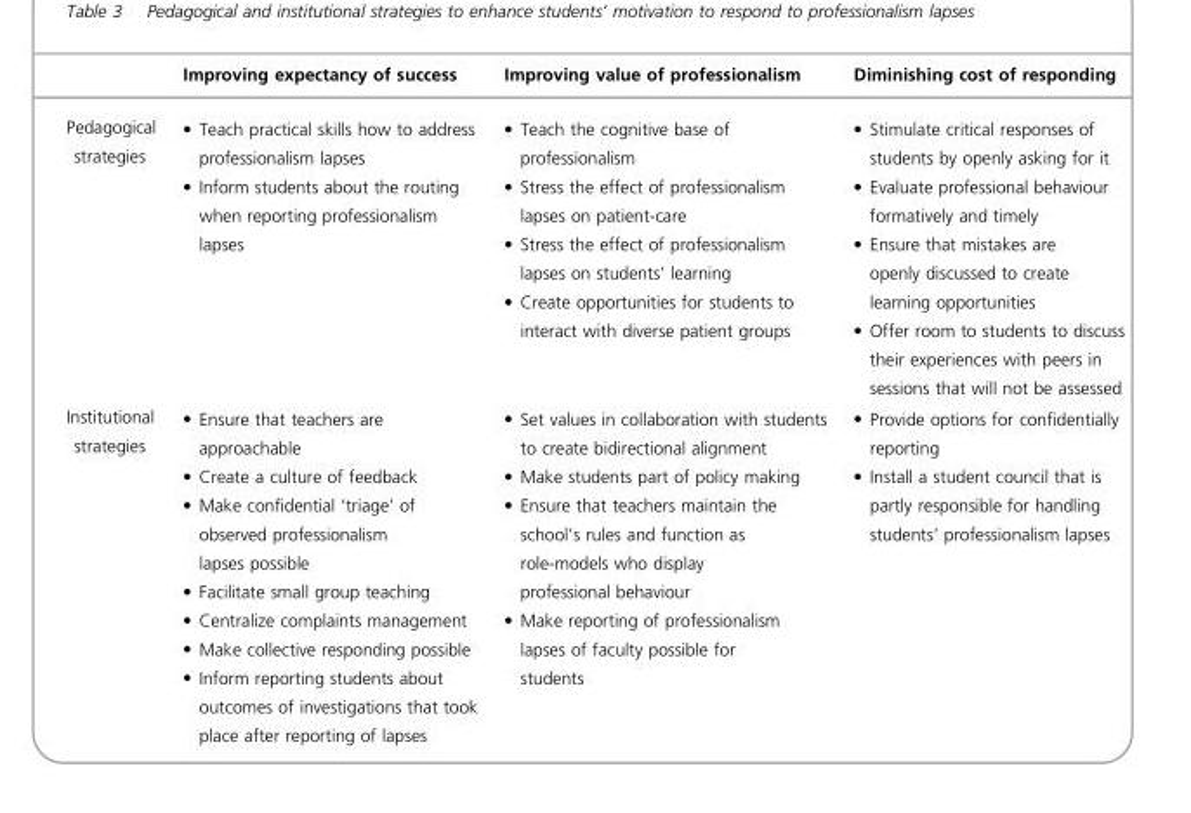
<table><thead><tr><td></td><td>Improving expectancy of success</td><td>Improving value of professionalism</td><td>Diminishing cost of responding</td></tr></thead><tbody><tr><td>Pedagogical strategies</td><td>� Teach practical skills how to address professionalism lapses � Inform students about the routing when reporting professionalism lapses</td><td>� Teach the cognitive base of professionalism � Stress the effect of professionalism lapses on patient-care � Stress the effect of professionalism lapses on students’ learning � Create opportunities for students to interact with diverse patient groups</td><td>� Stimulate critical responses of students by openly asking for it � Evaluate professional behaviour formatively and timely � Ensure that mistakes are openly discussed to create learning opportunities � Offer room to students to discuss their experiences with peers in sessions that will not be assessed</td></tr><tr><td>Institutional strategies</td><td>� Ensure that teachers are approachable � Create a culture of feedback � Make confidential ‘triage’ of observed professionalism lapses possible � Facilitate small group teaching � Centralize complaints management � Make collective responding possible � Inform reporting students about outcomes of investigations that took place after reporting of lapses</td><td>� Set values in collaboration with students to create bidirectional alignment � Make students part of policy making � Ensure that teachers maintain the school’s rules and function as role-models who display professional behaviour � Make reporting of professionalism lapses of faculty possible for students</td><td>� Provide options for confidentially reporting � Install a student council that is partly responsible for handling students’ professionalism lapses</td></tr></tbody></table>